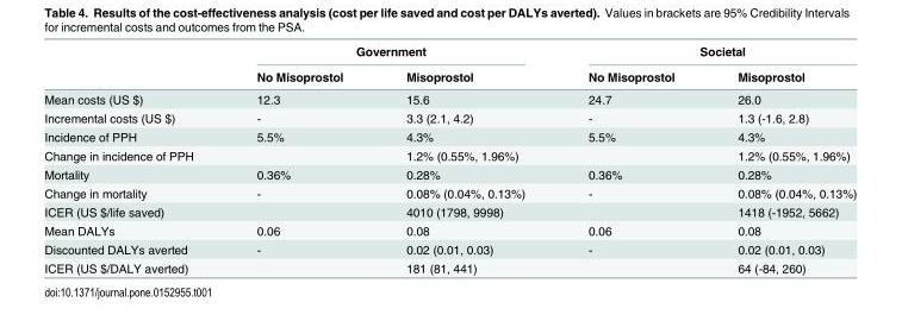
<table><thead><tr><td rowspan="2"></td><td colspan="2">Government</td><td colspan="2">Societal</td></tr><tr><td>No Misoprostol</td><td>Misoprostol</td><td>No Misoprostol</td><td>Misoprostol</td></tr></thead><tbody><tr><td>Mean costs (US $)</td><td>12.3</td><td>15.6</td><td>24.7</td><td>26.0</td></tr><tr><td>Incremental costs (US $)</td><td>-</td><td>3.3 (2.1, 4.2)</td><td>-</td><td>1.3 (-1.6, 2.8)</td></tr><tr><td>Incidence of PPH</td><td>5.5%</td><td>4.3%</td><td>5.5%</td><td>4.3%</td></tr><tr><td>Change in incidence of PPH</td><td></td><td>1.2% (0.55%, 1.96%)</td><td></td><td>1.2% (0.55%, 1.96%)</td></tr><tr><td>Mortality</td><td>0.36%</td><td>0.28%</td><td>0.36%</td><td>0.28%</td></tr><tr><td>Change in mortality</td><td>-</td><td>0.08% (0.04%, 0.13%)</td><td>-</td><td>0.08% (0.04%, 0.13%)</td></tr><tr><td>ICER (US $/life saved)</td><td></td><td>4010 (1798, 9998)</td><td></td><td>1418 (-1952, 5662)</td></tr><tr><td>Mean DALYs</td><td>0.06</td><td>0.08</td><td>0.06</td><td>0.08</td></tr><tr><td>Discounted DALYs averted</td><td>-</td><td>0.02 (0.01, 0.03)</td><td>-</td><td>0.02 (0.01, 0.03)</td></tr><tr><td>ICER (US $/DALY averted)</td><td></td><td>181 (81, 441)</td><td></td><td>64 (-84, 260)</td></tr></tbody></table>